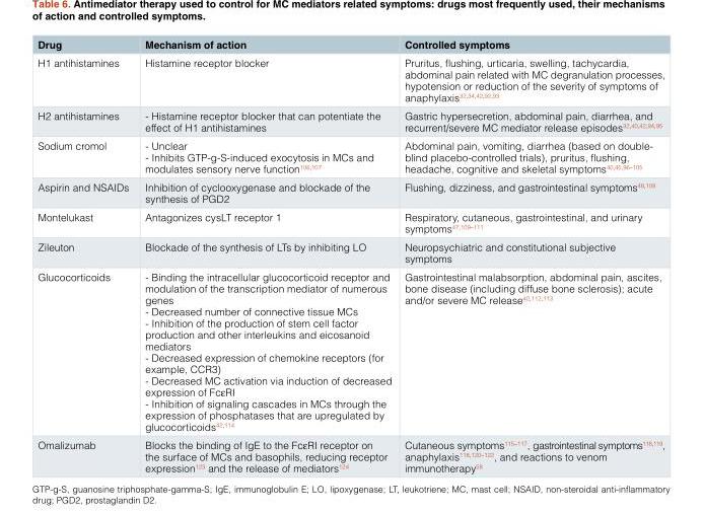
<table><thead><tr><td>Drug</td><td>Mechanism of action</td><td>Controlled symptoms</td></tr></thead><tbody><tr><td>H1 antihistamines</td><td>Histamine receptor blocker</td><td>Pruritus, flushing, urticaria, swelling, tachycardia, abdominal pain related with MC degranulation processes, hypotension or reduction of the severity of symptoms of anaphylaxis<sup>32,34,42,92,93</sup></td></tr><tr><td>H2 antihistamines</td><td>- Histamine receptor blocker that can potentiate the effect of H1 antihistamines</td><td>Gastric hypersecretion, abdominal pain, diarrhea, and recurrent/severe MC mediator release episodes<sup>32,40,42,94,95</sup></td></tr><tr><td>Sodium cromol</td><td>- Unclear - Inhibits GTP-g-S-induced exocytosis in MCs and modulates sensory nerve function<sup>106,107</sup></td><td>Abdominal pain, vomiting, diarrhea (based on double- blind placebo-controlled trials), pruritus, flushing, headache, cognitive and skeletal symptoms<sup>40,45,96–105</sup></td></tr><tr><td>Aspirin and NSAIDs</td><td>Inhibition of cyclooxygenase and blockade of the synthesis of PGD2</td><td>Flushing, dizziness, and gastrointestinal symptoms<sup>48,108</sup></td></tr><tr><td>Montelukast</td><td>Antagonizes cysLT receptor 1</td><td>Respiratory, cutaneous, gastrointestinal, and urinary symptoms<sup>47,109–111</sup></td></tr><tr><td>Zileuton</td><td>Blockade of the synthesis of LTs by inhibiting LO</td><td>Neuropsychiatric and constitutional subjective symptoms</td></tr><tr><td>Glucocorticoids</td><td>- Binding the intracellular glucocorticoid receptor and modulation of the transcription mediator of numerous genes - Decreased number of connective tissue MCs - Inhibition of the production of stem cell factor production and other interleukins and eicosanoid mediators - Decreased expression of chemokine receptors (for example, CCR3) - Decreased MC activation via induction of decreased expression of FcεRI - Inhibition of signaling cascades in MCs through the expression of phosphatases that are upregulated by glucocorticoids<sup>42,114</sup></td><td>Gastrointestinal malabsorption, abdominal pain, ascites, bone disease (including diffuse bone sclerosis); acute and/or severe MC release<sup>40,112,113</sup></td></tr><tr><td>Omalizumab</td><td>Blocks the binding of IgE to the FcεRI receptor on the surface of MCs and basophils, reducing receptor expression<sup>123</sup> and the release of mediators<sup>124</sup></td><td>Cutaneous symptoms<sup>115–117</sup>, gastrointestinal symptoms<sup>118,119</sup>, anaphylaxis<sup>118,120–122</sup>, and reactions to venom immunotherapy<sup>58</sup></td></tr></tbody></table>